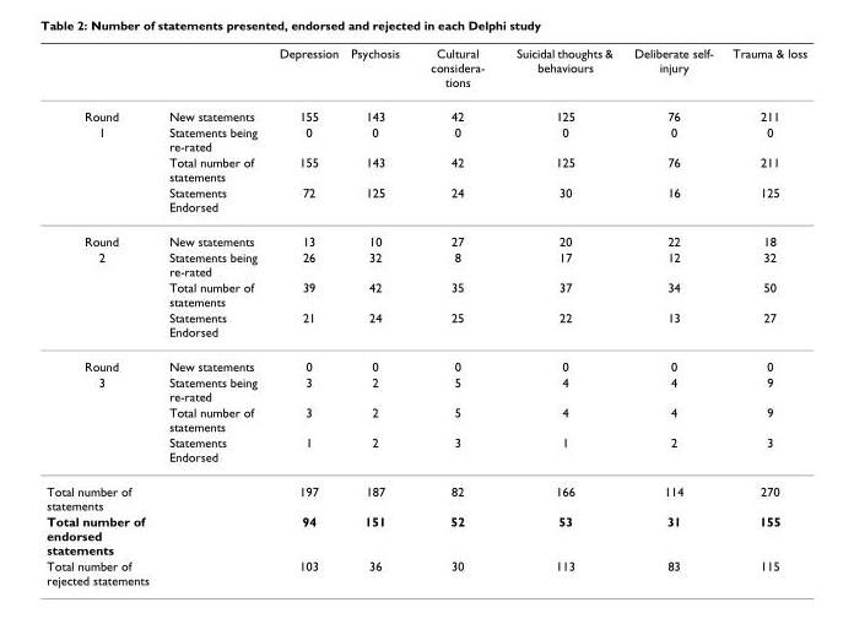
<table><thead><tr><td></td><td></td><td>Depression</td><td>Psychosis</td><td>Cultural considera- tions</td><td>Suicidal thoughts &amp; behaviours</td><td>Deliberate self- injury</td><td>Trauma &amp; loss</td></tr></thead><tbody><tr><td>Round</td><td>New statements</td><td>155</td><td>143</td><td>42</td><td>125</td><td>76</td><td>211</td></tr><tr><td rowspan="3">1</td><td>Statements being re-rated</td><td>0</td><td>0</td><td>0</td><td>0</td><td>0</td><td>0</td></tr><tr><td>Total number of statements</td><td>155</td><td>143</td><td>42</td><td>125</td><td>76</td><td>211</td></tr><tr><td>Statements Endorsed</td><td>72</td><td>125</td><td>24</td><td>30</td><td>16</td><td>125</td></tr><tr><td>Round</td><td>New statements</td><td>13</td><td>10</td><td>27</td><td>20</td><td>22</td><td>18</td></tr><tr><td rowspan="3">2</td><td>Statements being re-rated</td><td>26</td><td>32</td><td>8</td><td>17</td><td>12</td><td>32</td></tr><tr><td>Total number of statements</td><td>39</td><td>42</td><td>35</td><td>37</td><td>34</td><td>50</td></tr><tr><td>Statements Endorsed</td><td>21</td><td>24</td><td>25</td><td>22</td><td>13</td><td>27</td></tr><tr><td>Round</td><td>New statements</td><td>0</td><td>0</td><td>0</td><td>0</td><td>0</td><td>0</td></tr><tr><td rowspan="3">3</td><td>Statements being re-rated</td><td>3</td><td>2</td><td>5</td><td>4</td><td>4</td><td>9</td></tr><tr><td>Total number of statements</td><td>3</td><td>2</td><td>5</td><td>4</td><td>4</td><td>9</td></tr><tr><td>Statements Endorsed</td><td>1</td><td>2</td><td>3</td><td>1</td><td>2</td><td>3</td></tr><tr><td>Total number of statements</td><td></td><td>197</td><td>187</td><td>82</td><td>166</td><td>114</td><td>270</td></tr><tr><td>Total number of endorsed statements</td><td></td><td>94</td><td>151</td><td>52</td><td>53</td><td>31</td><td>155</td></tr><tr><td>Total number of rejected statements</td><td></td><td>103</td><td>36</td><td>30</td><td>113</td><td>83</td><td>115</td></tr></tbody></table>